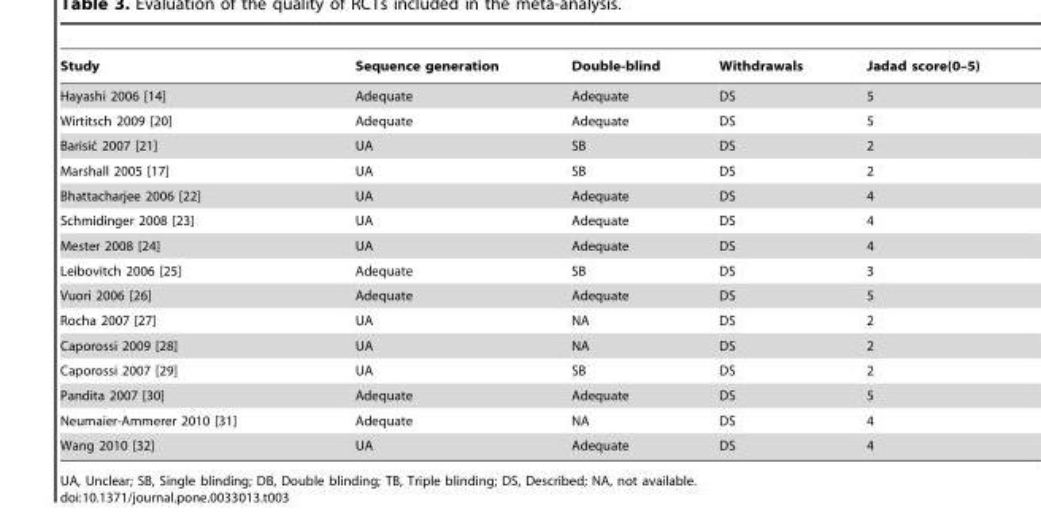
<table><thead><tr><td>Study</td><td>Sequence generation</td><td>Double-blind</td><td>Withdrawals</td><td>Jadad score(0–5)</td></tr></thead><tbody><tr><td>Hayashi 2006 [14]</td><td>Adequate</td><td>Adequate</td><td>DS</td><td>5</td></tr><tr><td>Wirtitsch 2009 [20]</td><td>Adequate</td><td>Adequate</td><td>DS</td><td>5</td></tr><tr><td>Barisic´ 2007 [21]</td><td>UA</td><td>SB</td><td>DS</td><td>2</td></tr><tr><td>Marshall 2005 [17]</td><td>UA</td><td>SB</td><td>DS</td><td>2</td></tr><tr><td>Bhattacharjee 2006 [22]</td><td>UA</td><td>Adequate</td><td>DS</td><td>4</td></tr><tr><td>Schmidinger 2008 [23]</td><td>UA</td><td>Adequate</td><td>DS</td><td>4</td></tr><tr><td>Mester 2008 [24]</td><td>UA</td><td>Adequate</td><td>DS</td><td>4</td></tr><tr><td>Leibovitch 2006 [25]</td><td>Adequate</td><td>SB</td><td>DS</td><td>3</td></tr><tr><td>Vuori 2006 [26]</td><td>Adequate</td><td>Adequate</td><td>DS</td><td>5</td></tr><tr><td>Rocha 2007 [27]</td><td>UA</td><td>NA</td><td>DS</td><td>2</td></tr><tr><td>Caporossi 2009 [28]</td><td>UA</td><td>NA</td><td>DS</td><td>2</td></tr><tr><td>Caporossi 2007 [29]</td><td>UA</td><td>SB</td><td>DS</td><td>2</td></tr><tr><td>Pandita 2007 [30]</td><td>Adequate</td><td>Adequate</td><td>DS</td><td>5</td></tr><tr><td>Neumaier-Ammerer 2010 [31]</td><td>Adequate</td><td>NA</td><td>DS</td><td>4</td></tr><tr><td>Wang 2010 [32]</td><td>UA</td><td>Adequate</td><td>DS</td><td>4</td></tr></tbody></table>